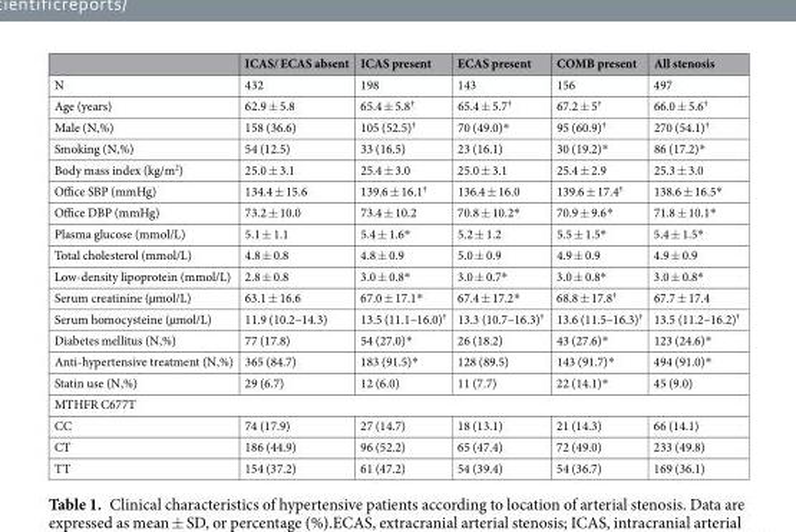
<table><thead><tr><td></td><td>ICAS/ ECAS absent</td><td>ICAS present</td><td>ECAS present</td><td>COMB present</td><td>All stenosis</td></tr></thead><tbody><tr><td>N</td><td>432</td><td>198</td><td>143</td><td>156</td><td>497</td></tr><tr><td>Age (years)</td><td>62.9 ± 5.8</td><td>65.4 ± 5.8<sup>†</sup></td><td>65.4 ± 5.7<sup>†</sup></td><td>67.2 ± 5<sup>†</sup></td><td>66.0 ± 5.6<sup>†</sup></td></tr><tr><td>Male (N,%)</td><td>158 (36.6)</td><td>105 (52.5)<sup>†</sup></td><td>70 (49.0)*</td><td>95 (60.9)<sup>†</sup></td><td>270 (54.1)<sup>†</sup></td></tr><tr><td>Smoking (N,%)</td><td>54 (12.5)</td><td>33 (16.5)</td><td>23 (16.1)</td><td>30 (19.2)*</td><td>86 (17.2)*</td></tr><tr><td>Body mass index (kg/m<sup>2</sup>)</td><td>25.0 ± 3.1</td><td>25.4 ± 3.0</td><td>25.0 ± 3.1</td><td>25.4 ± 2.9</td><td>25.3 ± 3.0</td></tr><tr><td>Office SBP (mmHg)</td><td>134.4 ± 15.6</td><td>139.6 ± 16.1<sup>†</sup></td><td>136.4 ± 16.0</td><td>139.6 ± 17.4<sup>†</sup></td><td>138.6 ± 16.5*</td></tr><tr><td>Office DBP (mmHg)</td><td>73.2 ± 10.0</td><td>73.4 ± 10.2</td><td>70.8 ± 10.2*</td><td>70.9 ± 9.6*</td><td>71.8 ± 10.1*</td></tr><tr><td>Plasma glucose (mmol/L)</td><td>5.1 ± 1.1</td><td>5.4 ± 1.6*</td><td>5.2 ± 1.2</td><td>5.5 ± 1.5*</td><td>5.4 ± 1.5*</td></tr><tr><td>Total cholesterol (mmol/L)</td><td>4.8 ± 0.8</td><td>4.8 ± 0.9</td><td>5.0 ± 0.9</td><td>4.9 ± 0.9</td><td>4.9 ± 0.9</td></tr><tr><td>Low-density lipoprotein (mmol/L)</td><td>2.8 ± 0.8</td><td>3.0 ± 0.8*</td><td>3.0 ± 0.7*</td><td>3.0 ± 0.8*</td><td>3.0 ± 0.8*</td></tr><tr><td>Serum creatinine (µmol/L)</td><td>63.1 ± 16.6</td><td>67.0 ± 17.1*</td><td>67.4 ± 17.2*</td><td>68.8 ± 17.8<sup>†</sup></td><td>67.7 ± 17.4</td></tr><tr><td>Serum homocysteine (µmol/L)</td><td>11.9 (10.2–14.3)</td><td>13.5 (11.1–16.0)<sup>†</sup></td><td>13.3 (10.7–16.3)<sup>†</sup></td><td>13.6 (11.5–16.3)<sup>†</sup></td><td>13.5 (11.2–16.2)<sup>†</sup></td></tr><tr><td>Diabetes mellitus (N,%)</td><td>77 (17.8)</td><td>54 (27.0)*</td><td>26 (18.2)</td><td>43 (27.6)*</td><td>123 (24.6)*</td></tr><tr><td>Anti-hypertensive treatment (N,%)</td><td>365 (84.7)</td><td>183 (91.5)*</td><td>128 (89.5)</td><td>143 (91.7)*</td><td>494 (91.0)*</td></tr><tr><td>Statin use (N,%)</td><td>29 (6.7)</td><td>12 (6.0)</td><td>11 (7.7)</td><td>22 (14.1)*</td><td>45 (9.0)</td></tr><tr><td colspan="6">MTHFR C677T</td></tr><tr><td>CC</td><td>74 (17.9)</td><td>27 (14.7)</td><td>18 (13.1)</td><td>21 (14.3)</td><td>66 (14.1)</td></tr><tr><td>CT</td><td>186 (44.9)</td><td>96 (52.2)</td><td>65 (47.4)</td><td>72 (49.0)</td><td>233 (49.8)</td></tr><tr><td>TT</td><td>154 (37.2)</td><td>61 (47.2)</td><td>54 (39.4)</td><td>54 (36.7)</td><td>169 (36.1)</td></tr></tbody></table>